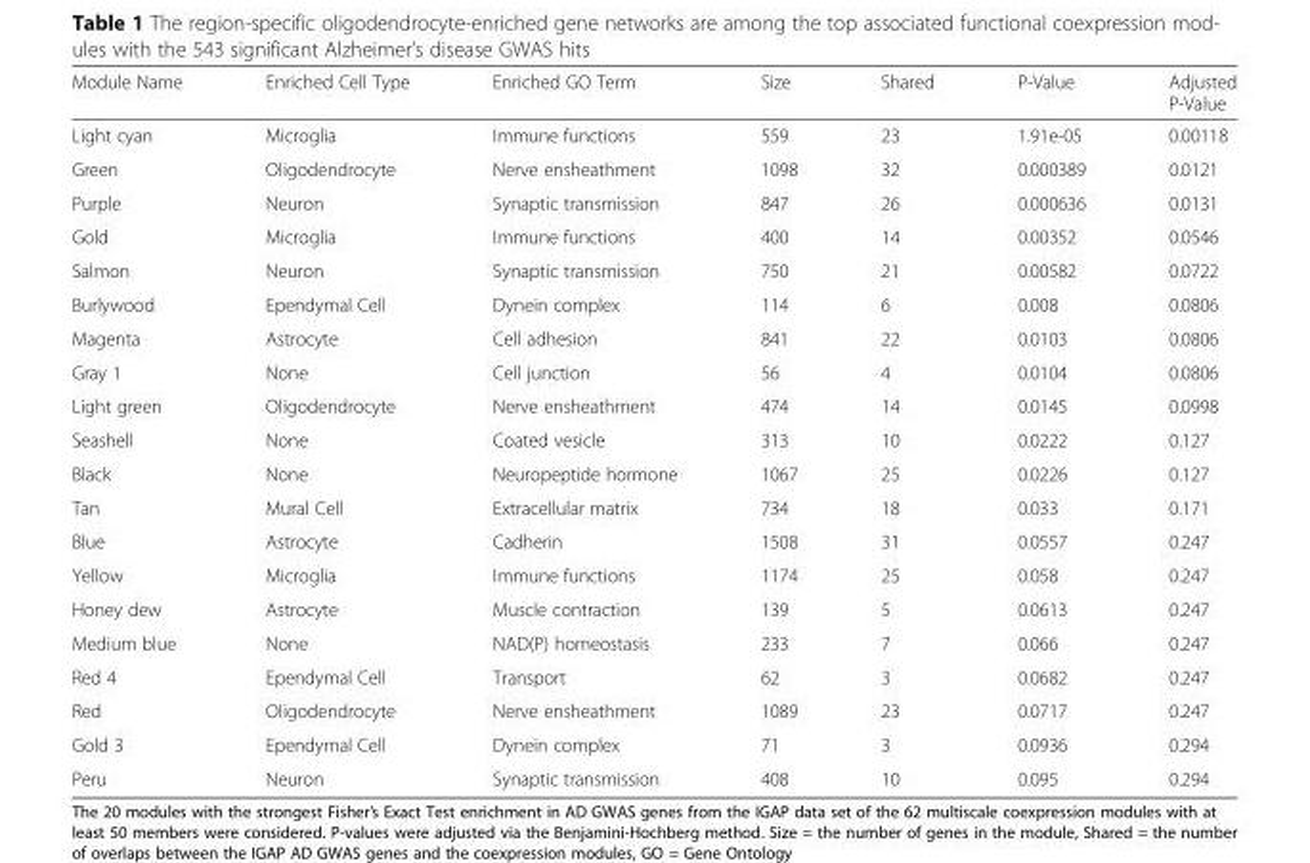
<table><thead><tr><td>Module Name</td><td>Enriched Cell Type</td><td>Enriched GO Term</td><td>Size</td><td>Shared</td><td>P-Value</td><td>Adjusted P-Value</td></tr></thead><tbody><tr><td>Light cyan</td><td>Microglia</td><td>Immune functions</td><td>559</td><td>23</td><td>1.91e-05</td><td>0.00118</td></tr><tr><td>Green</td><td>Oligodendrocyte</td><td>Nerve ensheathment</td><td>1098</td><td>32</td><td>0.000389</td><td>0.0121</td></tr><tr><td>Purple</td><td>Neuron</td><td>Synaptic transmission</td><td>847</td><td>26</td><td>0.000636</td><td>0.0131</td></tr><tr><td>Gold</td><td>Microglia</td><td>Immune functions</td><td>400</td><td>14</td><td>0.00352</td><td>0.0546</td></tr><tr><td>Salmon</td><td>Neuron</td><td>Synaptic transmission</td><td>750</td><td>21</td><td>0.00582</td><td>0.0722</td></tr><tr><td>Burlywood</td><td>Ependymal Cell</td><td>Dynein complex</td><td>114</td><td>6</td><td>0.008</td><td>0.0806</td></tr><tr><td>Magenta</td><td>Astrocyte</td><td>Cell adhesion</td><td>841</td><td>22</td><td>0.0103</td><td>0.0806</td></tr><tr><td>Gray 1</td><td>None</td><td>Cell junction</td><td>56</td><td>4</td><td>0.0104</td><td>0.0806</td></tr><tr><td>Light green</td><td>Oligodendrocyte</td><td>Nerve ensheathment</td><td>474</td><td>14</td><td>0.0145</td><td>0.0998</td></tr><tr><td>Seashell</td><td>None</td><td>Coated vesicle</td><td>313</td><td>10</td><td>0.0222</td><td>0.127</td></tr><tr><td>Black</td><td>None</td><td>Neuropeptide hormone</td><td>1067</td><td>25</td><td>0.0226</td><td>0.127</td></tr><tr><td>Tan</td><td>Mural Cell</td><td>Extracellular matrix</td><td>734</td><td>18</td><td>0.033</td><td>0.171</td></tr><tr><td>Blue</td><td>Astrocyte</td><td>Cadherin</td><td>1508</td><td>31</td><td>0.0557</td><td>0.247</td></tr><tr><td>Yellow</td><td>Microglia</td><td>Immune functions</td><td>1174</td><td>25</td><td>0.058</td><td>0.247</td></tr><tr><td>Honey dew</td><td>Astrocyte</td><td>Muscle contraction</td><td>139</td><td>5</td><td>0.0613</td><td>0.247</td></tr><tr><td>Medium blue</td><td>None</td><td>NAD(P) homeostasis</td><td>233</td><td>7</td><td>0.066</td><td>0.247</td></tr><tr><td>Red 4</td><td>Ependymal Cell</td><td>Transport</td><td>62</td><td>3</td><td>0.0682</td><td>0.247</td></tr><tr><td>Red</td><td>Oligodendrocyte</td><td>Nerve ensheathment</td><td>1089</td><td>23</td><td>0.0717</td><td>0.247</td></tr><tr><td>Gold 3</td><td>Ependymal Cell</td><td>Dynein complex</td><td>71</td><td>3</td><td>0.0936</td><td>0.294</td></tr><tr><td>Peru</td><td>Neuron</td><td>Synaptic transmission</td><td>408</td><td>10</td><td>0.095</td><td>0.294</td></tr></tbody></table>